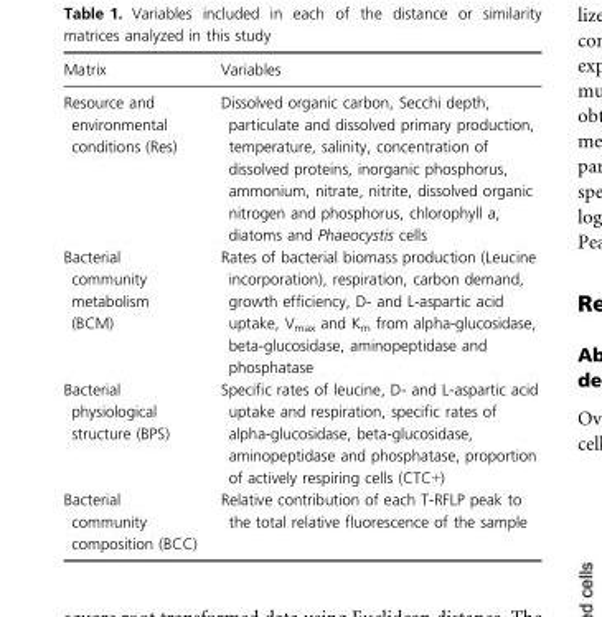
<table><thead><tr><td>Matrix</td><td>Variables</td></tr></thead><tbody><tr><td>Resource and environmental conditions (Res)</td><td>Dissolved organic carbon, Secchi depth, particulate and dissolved primary production, temperature, salinity, concentration of dissolved proteins, inorganic phosphorus, ammonium, nitrate, nitrite, dissolved organic nitrogen and phosphorus, chlorophyll a, diatoms and Phaeocystis cells</td></tr><tr><td>Bacterial community metabolism (BCM)</td><td>Rates of bacterial biomass production (Leucine incorporation), respiration, carbon demand, growth efficiency, D- and L-aspartic acid uptake, V<sub>max</sub> and K<sub>m</sub> from alpha-glucosidase, beta-glucosidase, aminopeptidase and phosphatase</td></tr><tr><td>Bacterial physiological structure (BPS)</td><td>Specific rates of leucine, D- and L-aspartic acid uptake and respiration, specific rates of alpha-glucosidase, beta-glucosidase, aminopeptidase and phosphatase, proportion of actively respiring cells (CTC+)</td></tr><tr><td>Bacterial community composition (BCC)</td><td>Relative contribution of each T-RFLP peak to the total relative fluorescence of the sample</td></tr></tbody></table>